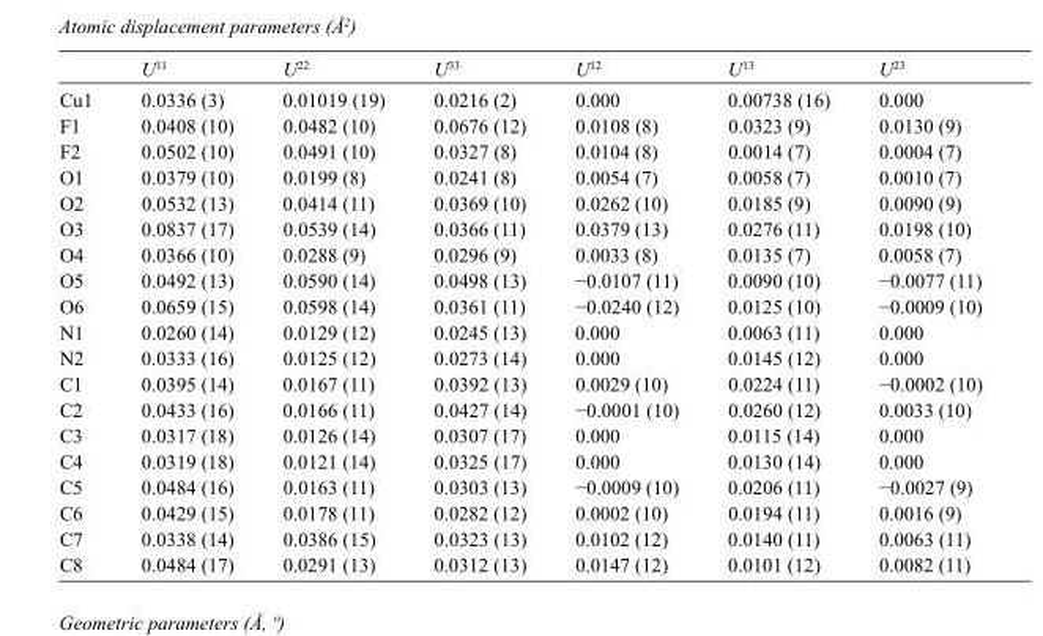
<table><thead><tr><td></td><td>U<sup>11</sup></td><td>U<sup>22</sup></td><td>U<sup>33</sup></td><td>U<sup>12</sup></td><td>U<sup>13</sup></td><td>U<sup>23</sup></td></tr></thead><tbody><tr><td>Cu1</td><td>0.0336 (3)</td><td>0.01019 (19)</td><td>0.0216 (2)</td><td>0.000</td><td>0.00738 (16)</td><td>0.000</td></tr><tr><td>F1</td><td>0.0408 (10)</td><td>0.0482 (10)</td><td>0.0676 (12)</td><td>0.0108 (8)</td><td>0.0323 (9)</td><td>0.0130 (9)</td></tr><tr><td>F2</td><td>0.0502 (10)</td><td>0.0491 (10)</td><td>0.0327 (8)</td><td>0.0104 (8)</td><td>0.0014 (7)</td><td>0.0004 (7)</td></tr><tr><td>O1</td><td>0.0379 (10)</td><td>0.0199 (8)</td><td>0.0241 (8)</td><td>0.0054 (7)</td><td>0.0058 (7)</td><td>0.0010 (7)</td></tr><tr><td>O2</td><td>0.0532 (13)</td><td>0.0414 (11)</td><td>0.0369 (10)</td><td>0.0262 (10)</td><td>0.0185 (9)</td><td>0.0090 (9)</td></tr><tr><td>O3</td><td>0.0837 (17)</td><td>0.0539 (14)</td><td>0.0366 (11)</td><td>0.0379 (13)</td><td>0.0276 (11)</td><td>0.0198 (10)</td></tr><tr><td>O4</td><td>0.0366 (10)</td><td>0.0288 (9)</td><td>0.0296 (9)</td><td>0.0033 (8)</td><td>0.0135 (7)</td><td>0.0058 (7)</td></tr><tr><td>O5</td><td>0.0492 (13)</td><td>0.0590 (14)</td><td>0.0498 (13)</td><td>−0.0107 (11)</td><td>0.0090 (10)</td><td>−0.0077 (11)</td></tr><tr><td>O6</td><td>0.0659 (15)</td><td>0.0598 (14)</td><td>0.0361 (11)</td><td>−0.0240 (12)</td><td>0.0125 (10)</td><td>−0.0009 (10)</td></tr><tr><td>N1</td><td>0.0260 (14)</td><td>0.0129 (12)</td><td>0.0245 (13)</td><td>0.000</td><td>0.0063 (11)</td><td>0.000</td></tr><tr><td>N2</td><td>0.0333 (16)</td><td>0.0125 (12)</td><td>0.0273 (14)</td><td>0.000</td><td>0.0145 (12)</td><td>0.000</td></tr><tr><td>C1</td><td>0.0395 (14)</td><td>0.0167 (11)</td><td>0.0392 (13)</td><td>0.0029 (10)</td><td>0.0224 (11)</td><td>−0.0002 (10)</td></tr><tr><td>C2</td><td>0.0433 (16)</td><td>0.0166 (11)</td><td>0.0427 (14)</td><td>−0.0001 (10)</td><td>0.0260 (12)</td><td>0.0033 (10)</td></tr><tr><td>C3</td><td>0.0317 (18)</td><td>0.0126 (14)</td><td>0.0307 (17)</td><td>0.000</td><td>0.0115 (14)</td><td>0.000</td></tr><tr><td>C4</td><td>0.0319 (18)</td><td>0.0121 (14)</td><td>0.0325 (17)</td><td>0.000</td><td>0.0130 (14)</td><td>0.000</td></tr><tr><td>C5</td><td>0.0484 (16)</td><td>0.0163 (11)</td><td>0.0303 (13)</td><td>−0.0009 (10)</td><td>0.0206 (11)</td><td>−0.0027 (9)</td></tr><tr><td>C6</td><td>0.0429 (15)</td><td>0.0178 (11)</td><td>0.0282 (12)</td><td>0.0002 (10)</td><td>0.0194 (11)</td><td>0.0016 (9)</td></tr><tr><td>C7</td><td>0.0338 (14)</td><td>0.0386 (15)</td><td>0.0323 (13)</td><td>0.0102 (12)</td><td>0.0140 (11)</td><td>0.0063 (11)</td></tr><tr><td>C8</td><td>0.0484 (17)</td><td>0.0291 (13)</td><td>0.0312 (13)</td><td>0.0147 (12)</td><td>0.0101 (12)</td><td>0.0082 (11)</td></tr></tbody></table>